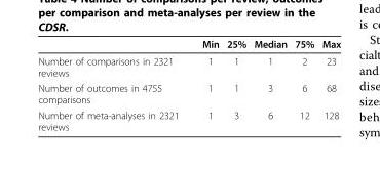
<table><thead><tr><td></td><td>Min</td><td>25%</td><td>Median</td><td>75%</td><td>Max</td></tr></thead><tbody><tr><td>Number of comparisons in 2321 reviews</td><td>1</td><td>1</td><td>1</td><td>2</td><td>23</td></tr><tr><td>Number of outcomes in 4755 comparisons</td><td>1</td><td>1</td><td>3</td><td>6</td><td>68</td></tr><tr><td>Number of meta-analyses in 2321 reviews</td><td>1</td><td>3</td><td>6</td><td>12</td><td>128</td></tr></tbody></table>